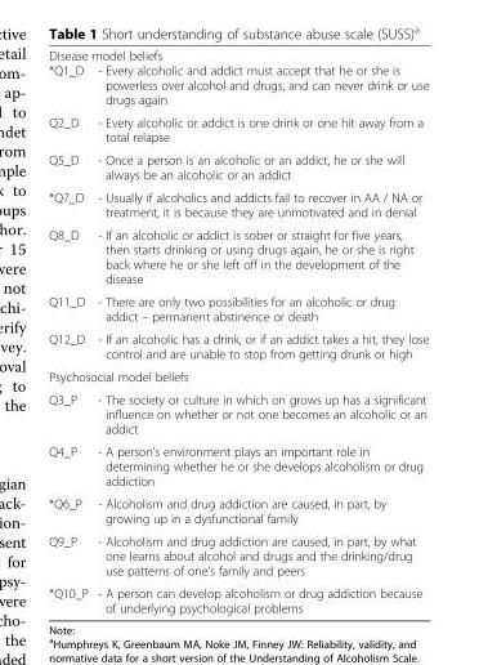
<table><thead><tr><td colspan="2">Disease model beliefs</td></tr><tr><td>*Q1_D</td><td>- Every alcoholic and addict must accept that he or she is powerless over alcohol and drugs, and can never drink or use drugs again</td></tr></thead><tbody><tr><td>Q2_D</td><td>- Every alcoholic or addict is one drink or one hit away from a total relapse</td></tr><tr><td>Q5_D</td><td>- Once a person is an alcoholic or an addict, he or she will always be an alcoholic or an addict</td></tr><tr><td>*Q7_D</td><td>- Usually if alcoholics and addicts fail to recover in AA / NA or treatment, it is because they are unmotivated and in denial</td></tr><tr><td>Q8_D</td><td>- If an alcoholic or addict is sober or straight for five years, then starts drinking or using drugs again, he or she is right back where he or she left off in the development of the disease</td></tr><tr><td>Q11_D</td><td>- There are only two possibilities for an alcoholic or drug addict – permanent abstinence or death</td></tr><tr><td>Q12_D</td><td>- If an alcoholic has a drink, or if an addict takes a hit, they lose control and are unable to stop from getting drunk or high</td></tr><tr><td colspan="2">Psychosocial model beliefs</td></tr><tr><td>Q3_P</td><td>- The society or culture in which on grows up has a significant influence on whether or not one becomes an alcoholic or an addict</td></tr><tr><td>Q4_P</td><td>- A person’s environment plays an important role in determining whether he or she develops alcoholism or drug addiction</td></tr><tr><td>*Q6_P</td><td>- Alcoholism and drug addiction are caused, in part, by growing up in a dysfunctional family</td></tr><tr><td>Q9_P</td><td>- Alcoholism and drug addiction are caused, in part, by what one learns about alcohol and drugs and the drinking/drug use patterns of one’s family and peers</td></tr><tr><td>*Q10_P</td><td>- A person can develop alcoholism or drug addiction because of underlying psychological problems</td></tr></tbody></table>